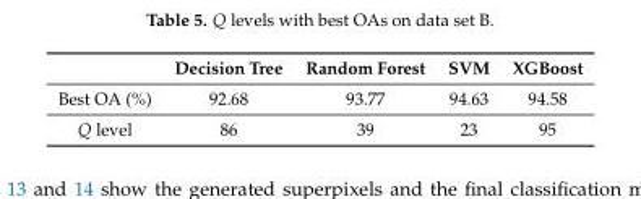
<table><thead><tr><td></td><td>Decision Tree</td><td>Random Forest</td><td>SVM</td><td>XGBoost</td></tr></thead><tbody><tr><td>Best OA (%)</td><td>92.68</td><td>93.77</td><td>94.63</td><td>94.58</td></tr><tr><td>Q level</td><td>86</td><td>39</td><td>23</td><td>95</td></tr></tbody></table>